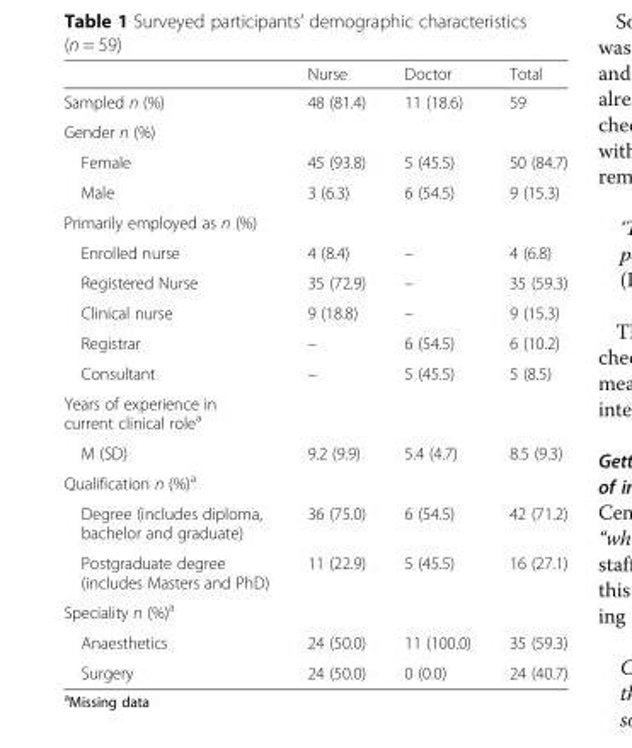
<table><thead><tr><td></td><td>Nurse</td><td>Doctor</td><td>Total</td></tr></thead><tbody><tr><td>Sampled n (%)</td><td>48 (81.4)</td><td>11 (18.6)</td><td>59</td></tr><tr><td colspan="4">Gender n (%)</td></tr><tr><td>Female</td><td>45 (93.8)</td><td>5 (45.5)</td><td>50 (84.7)</td></tr><tr><td>Male</td><td>3 (6.3)</td><td>6 (54.5)</td><td>9 (15.3)</td></tr><tr><td colspan="4">Primarily employed as n (%)</td></tr><tr><td>Enrolled nurse</td><td>4 (8.4)</td><td>–</td><td>4 (6.8)</td></tr><tr><td>Registered Nurse</td><td>35 (72.9)</td><td>–</td><td>35 (59.3)</td></tr><tr><td>Clinical nurse</td><td>9 (18.8)</td><td>–</td><td>9 (15.3)</td></tr><tr><td>Registrar</td><td>–</td><td>6 (54.5)</td><td>6 (10.2)</td></tr><tr><td>Consultant</td><td>–</td><td>5 (45.5)</td><td>5 (8.5)</td></tr><tr><td colspan="4">Years of experience in current clinical role<sup>a</sup></td></tr><tr><td>M (SD)</td><td>9.2 (9.9)</td><td>5.4 (4.7)</td><td>8.5 (9.3)</td></tr><tr><td colspan="4">Qualification n (%)<sup>a</sup></td></tr><tr><td>Degree (includes diploma, bachelor and graduate)</td><td>36 (75.0)</td><td>6 (54.5)</td><td>42 (71.2)</td></tr><tr><td>Postgraduate degree (includes Masters and PhD)</td><td>11 (22.9)</td><td>5 (45.5)</td><td>16 (27.1)</td></tr><tr><td colspan="4">Speciality n (%)<sup>a</sup></td></tr><tr><td>Anaesthetics</td><td>24 (50.0)</td><td>11 (100.0)</td><td>35 (59.3)</td></tr><tr><td>Surgery</td><td>24 (50.0)</td><td>0 (0.0)</td><td>24 (40.7)</td></tr></tbody></table>